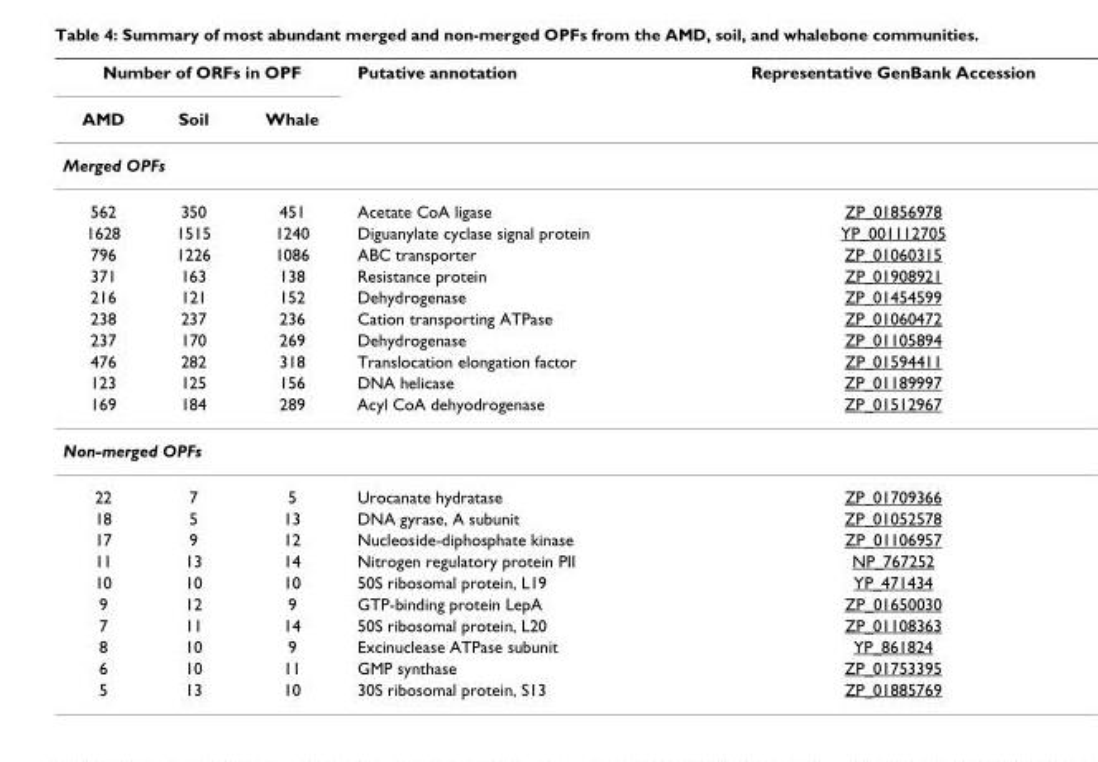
<table><thead><tr><td colspan="3">Number of ORFs in OPF</td><td rowspan="2">Putative annotation</td><td rowspan="2">Representative GenBank Accession</td></tr><tr><td>AMD</td><td>Soil</td><td>Whale</td></tr></thead><tbody><tr><td colspan="5">Merged OPFs</td></tr><tr><td>562</td><td>350</td><td>451</td><td>Acetate CoA ligase</td><td>ZP_01856978</td></tr><tr><td>1628</td><td>1515</td><td>1240</td><td>Diguanylate cyclase signal protein</td><td>YP_001112705</td></tr><tr><td>796</td><td>1226</td><td>1086</td><td>ABC transporter</td><td>ZP_01060315</td></tr><tr><td>371</td><td>163</td><td>138</td><td>Resistance protein</td><td>ZP_01908921</td></tr><tr><td>216</td><td>121</td><td>152</td><td>Dehydrogenase</td><td>ZP_01454599</td></tr><tr><td>238</td><td>237</td><td>236</td><td>Cation transporting ATPase</td><td>ZP_01060472</td></tr><tr><td>237</td><td>170</td><td>269</td><td>Dehydrogenase</td><td>ZP_01105894</td></tr><tr><td>476</td><td>282</td><td>318</td><td>Translocation elongation factor</td><td>ZP_01594411</td></tr><tr><td>123</td><td>125</td><td>156</td><td>DNA helicase</td><td>ZP_01189997</td></tr><tr><td>169</td><td>184</td><td>289</td><td>Acyl CoA dehyodrogenase</td><td>ZP_01512967</td></tr><tr><td colspan="5">Non-merged OPFs</td></tr><tr><td>22</td><td>7</td><td>5</td><td>Urocanate hydratase</td><td>ZP_01709366</td></tr><tr><td>18</td><td>5</td><td>13</td><td>DNA gyrase, A subunit</td><td>ZP_01052578</td></tr><tr><td>17</td><td>9</td><td>12</td><td>Nucleoside-diphosphate kinase</td><td>ZP_01106957</td></tr><tr><td>11</td><td>13</td><td>14</td><td>Nitrogen regulatory protein PII</td><td>NP_767252</td></tr><tr><td>10</td><td>10</td><td>10</td><td>50S ribosomal protein, L19</td><td>YP_471434</td></tr><tr><td>9</td><td>12</td><td>9</td><td>GTP-binding protein LepA</td><td>ZP_01650030</td></tr><tr><td>7</td><td>11</td><td>14</td><td>50S ribosomal protein, L20</td><td>ZP_01108363</td></tr><tr><td>8</td><td>10</td><td>9</td><td>Excinuclease ATPase subunit</td><td>YP_861824</td></tr><tr><td>6</td><td>10</td><td>11</td><td>GMP synthase</td><td>ZP_01753395</td></tr><tr><td>5</td><td>13</td><td>10</td><td>30S ribosomal protein, S13</td><td>ZP_01885769</td></tr></tbody></table>